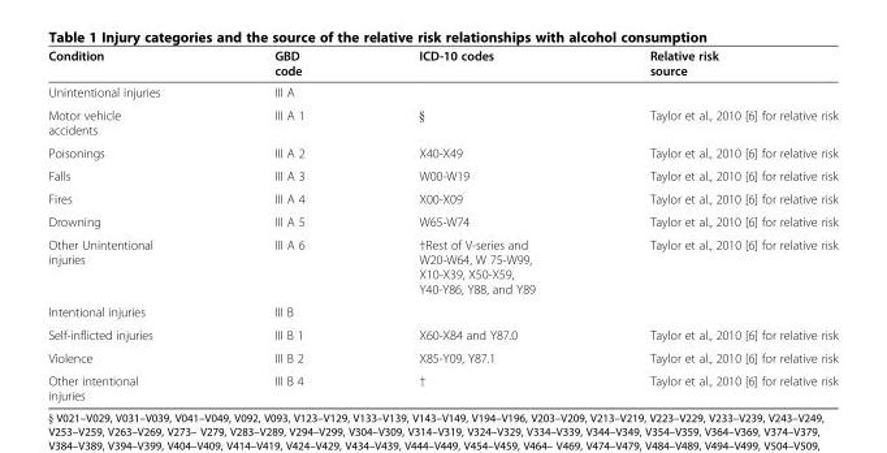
<table><thead><tr><td>Condition</td><td>GBD code</td><td>ICD-10 codes</td><td>Relative risk source</td></tr></thead><tbody><tr><td>Unintentional injuries</td><td>III A</td><td></td><td></td></tr><tr><td>Motor vehicle accidents</td><td>III A 1</td><td>§</td><td>Taylor et al., 2010 [6] for relative risk</td></tr><tr><td>Poisonings</td><td>III A 2</td><td>X40-X49</td><td>Taylor et al., 2010 [6] for relative risk</td></tr><tr><td>Falls</td><td>III A 3</td><td>W00-W19</td><td>Taylor et al., 2010 [6] for relative risk</td></tr><tr><td>Fires</td><td>III A 4</td><td>X00-X09</td><td>Taylor et al., 2010 [6] for relative risk</td></tr><tr><td>Drowning</td><td>III A 5</td><td>W65-W74</td><td>Taylor et al., 2010 [6] for relative risk</td></tr><tr><td>Other Unintentional injuries</td><td>III A 6</td><td>†Rest of V-series and W20-W64, W 75-W99, X10-X39, X50-X59, Y40-Y86, Y88, and Y89</td><td>Taylor et al., 2010 [6] for relative risk</td></tr><tr><td>Intentional injuries</td><td>III B</td><td></td><td></td></tr><tr><td>Self-inflicted injuries</td><td>III B 1</td><td>X60-X84 and Y87.0</td><td>Taylor et al., 2010 [6] for relative risk</td></tr><tr><td>Violence</td><td>III B 2</td><td>X85-Y09, Y87.1</td><td>Taylor et al., 2010 [6] for relative risk</td></tr><tr><td>Other intentional injuries</td><td>III B 4</td><td>†</td><td>Taylor et al., 2010 [6] for relative risk</td></tr></tbody></table>